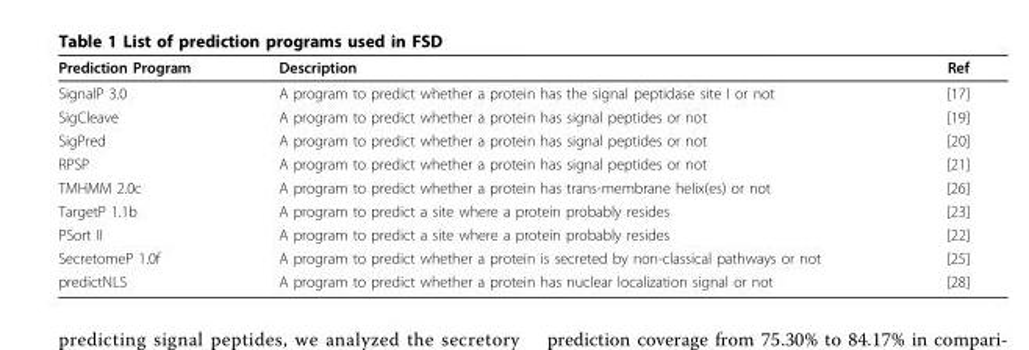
<table><thead><tr><td>Prediction Program</td><td>Description</td><td>Ref</td></tr></thead><tbody><tr><td>SignalP 3.0</td><td>A program to predict whether a protein has the signal peptidase site I or not</td><td>[17]</td></tr><tr><td>SigCleave</td><td>A program to predict whether a protein has signal peptides or not</td><td>[19]</td></tr><tr><td>SigPred</td><td>A program to predict whether a protein has signal peptides or not</td><td>[20]</td></tr><tr><td>RPSP</td><td>A program to predict whether a protein has signal peptides or not</td><td>[21]</td></tr><tr><td>TMHMM 2.0c</td><td>A program to predict whether a protein has trans-membrane helix(es) or not</td><td>[26]</td></tr><tr><td>TargetP 1.1b</td><td>A program to predict a site where a protein probably resides</td><td>[23]</td></tr><tr><td>PSort II</td><td>A program to predict a site where a protein probably resides</td><td>[22]</td></tr><tr><td>SecretomeP 1.0f</td><td>A program to predict whether a protein is secreted by non-classical pathways or not</td><td>[25]</td></tr><tr><td>predictNLS</td><td>A program to predict whether a protein has nuclear localization signal or not</td><td>[28]</td></tr></tbody></table>